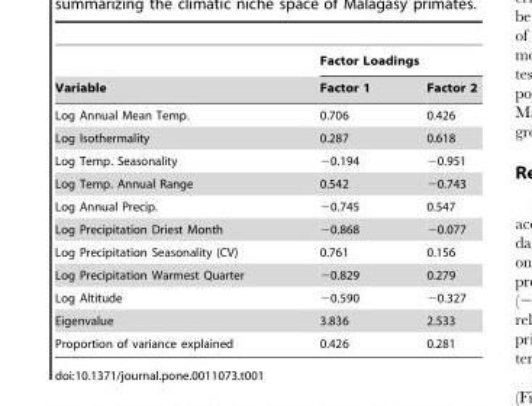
<table><thead><tr><td rowspan="2">Variable</td><td colspan="2">Factor Loadings</td></tr><tr><td>Factor 1</td><td>Factor 2</td></tr></thead><tbody><tr><td>Log Annual Mean Temp.</td><td>0.706</td><td>0.426</td></tr><tr><td>Log Isothermality</td><td>0.287</td><td>0.618</td></tr><tr><td>Log Temp. Seasonality</td><td>−0.194</td><td>−0.951</td></tr><tr><td>Log Temp. Annual Range</td><td>0.542</td><td>−0.743</td></tr><tr><td>Log Annual Precip.</td><td>−0.745</td><td>0.547</td></tr><tr><td>Log Precipitation Driest Month</td><td>−0.868</td><td>−0.077</td></tr><tr><td>Log Precipitation Seasonality (CV)</td><td>0.761</td><td>0.156</td></tr><tr><td>Log Precipitation Warmest Quarter</td><td>−0.829</td><td>0.279</td></tr><tr><td>Log Altitude</td><td>−0.590</td><td>−0.327</td></tr><tr><td>Eigenvalue</td><td>3.836</td><td>2.533</td></tr><tr><td>Proportion of variance explained</td><td>0.426</td><td>0.281</td></tr></tbody></table>